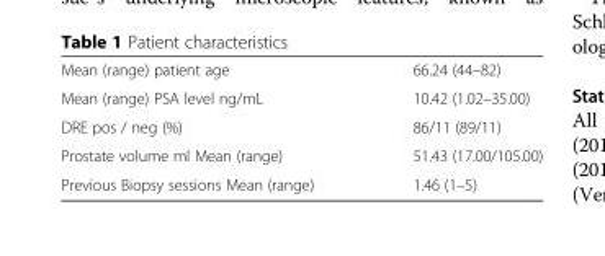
<table><tbody><tr><td>Mean (range) patient age</td><td>66.24 (44–82)</td></tr><tr><td>Mean (range) PSA level ng/mL</td><td>10.42 (1.02–35.00)</td></tr><tr><td>DRE pos / neg (%)</td><td>86/11 (89/11)</td></tr><tr><td>Prostate volume ml Mean (range)</td><td>51.43 (17.00/105.00)</td></tr><tr><td>Previous Biopsy sessions Mean (range)</td><td>1.46 (1–5)</td></tr></tbody></table>